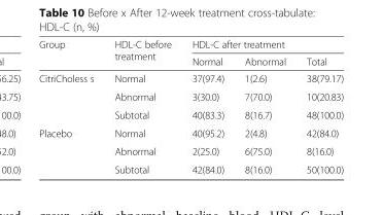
<table><thead><tr><td rowspan="2">Group</td><td rowspan="2">HDL-C before treatment</td><td colspan="3">HDL-C after treatment</td></tr><tr><td>Normal</td><td>Abnormal</td><td>Total</td></tr></thead><tbody><tr><td rowspan="3">CitriCholess s</td><td>Normal</td><td>37(97.4)</td><td>1(2.6)</td><td>38(79.17)</td></tr><tr><td>Abnormal</td><td>3(30.0)</td><td>7(70.0)</td><td>10(20.83)</td></tr><tr><td>Subtotal</td><td>40(83.3)</td><td>8(16.7)</td><td>48(100.0)</td></tr><tr><td rowspan="3">Placebo</td><td>Normal</td><td>40(95.2)</td><td>2(4.8)</td><td>42(84.0)</td></tr><tr><td>Abnormal</td><td>2(25.0)</td><td>6(75.0)</td><td>8(16.0)</td></tr><tr><td>Subtotal</td><td>42(84.0)</td><td>8(16.0)</td><td>50(100.0)</td></tr></tbody></table>